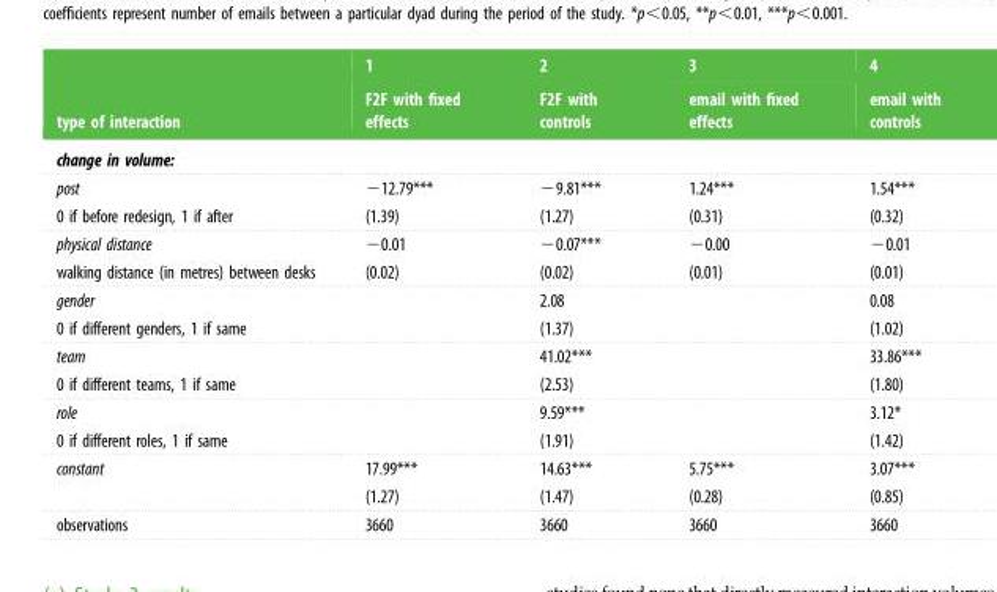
<table><thead><tr><td rowspan="2">type of interaction</td><td rowspan="2">1 F2F with fixed effects</td><td rowspan="2">2 F2F with controls</td><td rowspan="2">3 email with fixed effects</td><td rowspan="2">4 email with controls</td></tr><tr></tr></thead><tbody><tr><td colspan="5">change in volume:</td></tr><tr><td>post 0 if before redesign, 1 if after</td><td>−12.79*** (1.39)</td><td>−9.81*** (1.27)</td><td>1.24*** (0.31)</td><td>1.54*** (0.32)</td></tr><tr><td>physical distance walking distance (in metres) between desks</td><td>−0.01 (0.02)</td><td>−0.07*** (0.02)</td><td>−0.00 (0.01)</td><td>−0.01 (0.01)</td></tr><tr><td>gender 0 if different genders, 1 if same</td><td></td><td>2.08 (1.37)</td><td></td><td>0.08 (1.02)</td></tr><tr><td>team 0 if different teams, 1 if same</td><td></td><td>41.02*** (2.53)</td><td></td><td>33.86*** (1.80)</td></tr><tr><td>role 0 if different roles, 1 if same</td><td></td><td>9.59*** (1.91)</td><td></td><td>3.12* (1.42)</td></tr><tr><td>constant</td><td>17.99*** (1.27)</td><td>14.63*** (1.47)</td><td>5.75*** (0.28)</td><td>3.07*** (0.85)</td></tr><tr><td>observations</td><td>3660</td><td>3660</td><td>3660</td><td>3660</td></tr></tbody></table>